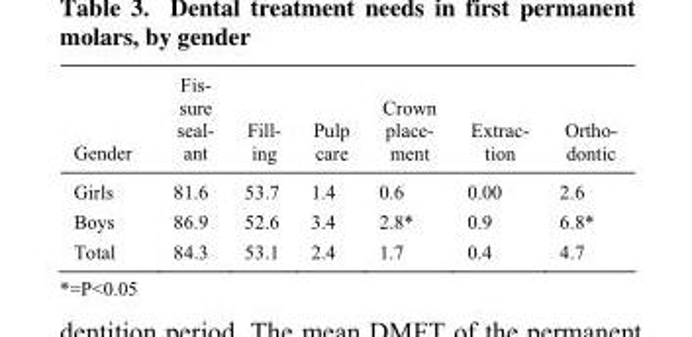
<table><tbody><tr><td>Gender</td><td>Fis- sure seal- ant</td><td>Fill- ing</td><td>Pulp care</td><td>Crown place- ment</td><td>Extrac- tion</td><td>Ortho- dontic</td></tr><tr><td>Girls Boys Total</td><td>81.6 86.9 84.3</td><td>53.7 52.6 53.1</td><td>1.4 3.4 2.4</td><td>0.6 2.8* 1.7</td><td>0.00 0.9 0.4</td><td>2.6 6.8* 4.7</td></tr></tbody></table>